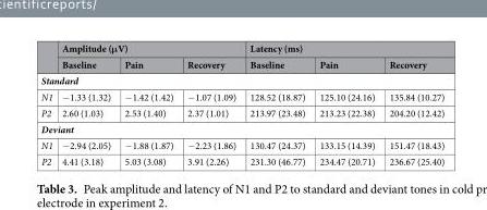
<table><thead><tr><td rowspan="2"></td><td colspan="3">Amplitude (μV)</td><td colspan="3">Latency (ms)</td></tr><tr><td>Baseline</td><td>Pain</td><td>Recovery</td><td>Baseline</td><td>Pain</td><td>Recovery</td></tr></thead><tbody><tr><td colspan="7">Standard</td></tr><tr><td>N1</td><td>−1.33 (1.32)</td><td>−1.42 (1.42)</td><td>−1.07 (1.09)</td><td>128.52 (18.87)</td><td>125.10 (24.16)</td><td>135.84 (10.27)</td></tr><tr><td>P2</td><td>2.60 (1.03)</td><td>2.53 (1.40)</td><td>2.37 (1.01)</td><td>213.97 (23.48)</td><td>213.23 (22.38)</td><td>204.20 (12.42)</td></tr><tr><td colspan="7">Deviant</td></tr><tr><td>N1</td><td>−2.94 (2.05)</td><td>−1.88 (1.87)</td><td>−2.23 (1.86)</td><td>130.47 (24.37)</td><td>133.15 (14.39)</td><td>151.47 (18.43)</td></tr><tr><td>P2</td><td>4.41 (3.18)</td><td>5.03 (3.08)</td><td>3.91 (2.26)</td><td>231.30 (46.77)</td><td>234.47 (20.71)</td><td>236.67 (25.40)</td></tr></tbody></table>